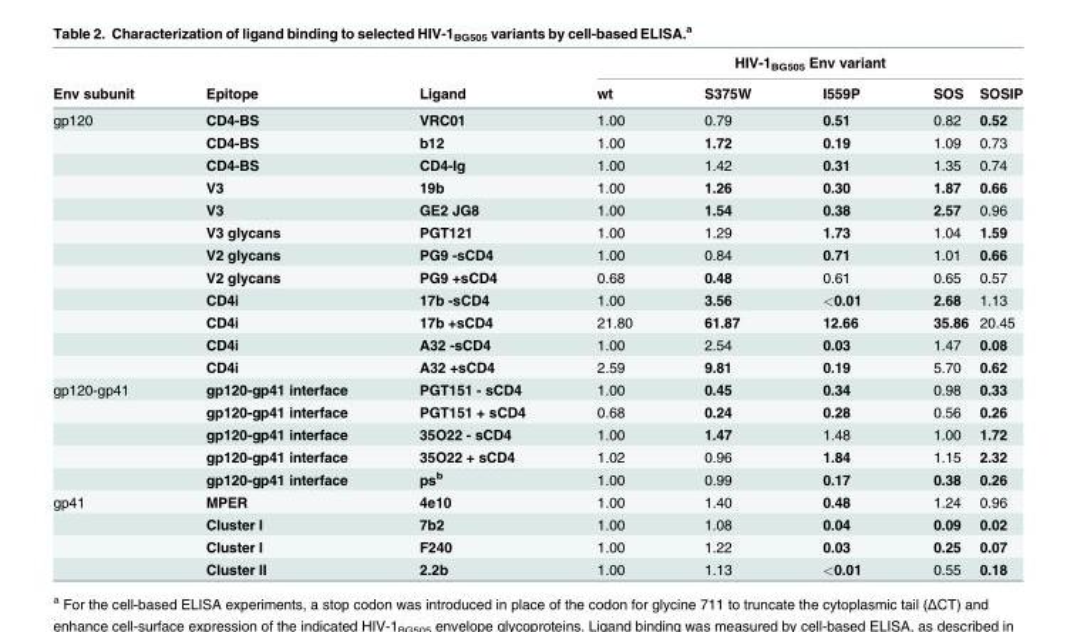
<table><thead><tr><td rowspan="2">Env subunit</td><td rowspan="2">Epitope</td><td rowspan="2">Ligand</td><td colspan="5">HIV-1<sub>BG505</sub> Env variant</td></tr><tr><td>wt</td><td>S375W</td><td>I559P</td><td>SOS</td><td>SOSIP</td></tr></thead><tbody><tr><td rowspan="12">gp120</td><td>CD4-BS</td><td>VRC01</td><td>1.00</td><td>0.79</td><td>0.51</td><td>0.82</td><td>0.52</td></tr><tr><td>CD4-BS</td><td>b12</td><td>1.00</td><td>1.72</td><td>0.19</td><td>1.09</td><td>0.73</td></tr><tr><td>CD4-BS</td><td>CD4-Ig</td><td>1.00</td><td>1.42</td><td>0.31</td><td>1.35</td><td>0.74</td></tr><tr><td>V3</td><td>19b</td><td>1.00</td><td>1.26</td><td>0.30</td><td>1.87</td><td>0.66</td></tr><tr><td>V3</td><td>GE2 JG8</td><td>1.00</td><td>1.54</td><td>0.38</td><td>2.57</td><td>0.96</td></tr><tr><td>V3 glycans</td><td>PGT121</td><td>1.00</td><td>1.29</td><td>1.73</td><td>1.04</td><td>1.59</td></tr><tr><td>V2 glycans</td><td>PG9 -sCD4</td><td>1.00</td><td>0.84</td><td>0.71</td><td>1.01</td><td>0.66</td></tr><tr><td>V2 glycans</td><td>PG9 +sCD4</td><td>0.68</td><td>0.48</td><td>0.61</td><td>0.65</td><td>0.57</td></tr><tr><td>CD4i</td><td>17b -sCD4</td><td>1.00</td><td>3.56</td><td>&lt;0.01</td><td>2.68</td><td>1.13</td></tr><tr><td>CD4i</td><td>17b +sCD4</td><td>21.80</td><td>61.87</td><td>12.66</td><td>35.86</td><td>20.45</td></tr><tr><td>CD4i</td><td>A32 -sCD4</td><td>1.00</td><td>2.54</td><td>0.03</td><td>1.47</td><td>0.08</td></tr><tr><td>CD4i</td><td>A32 +sCD4</td><td>2.59</td><td>9.81</td><td>0.19</td><td>5.70</td><td>0.62</td></tr><tr><td rowspan="5">gp120-gp41</td><td>gp120-gp41 interface</td><td>PGT151 - sCD4</td><td>1.00</td><td>0.45</td><td>0.34</td><td>0.98</td><td>0.33</td></tr><tr><td>gp120-gp41 interface</td><td>PGT151 + sCD4</td><td>0.68</td><td>0.24</td><td>0.28</td><td>0.56</td><td>0.26</td></tr><tr><td>gp120-gp41 interface</td><td>35O22 - sCD4</td><td>1.00</td><td>1.47</td><td>1.48</td><td>1.00</td><td>1.72</td></tr><tr><td>gp120-gp41 interface</td><td>35O22 + sCD4</td><td>1.02</td><td>0.96</td><td>1.84</td><td>1.15</td><td>2.32</td></tr><tr><td>gp120-gp41 interface</td><td>ps<sup>b</sup></td><td>1.00</td><td>0.99</td><td>0.17</td><td>0.38</td><td>0.26</td></tr><tr><td rowspan="4">gp41</td><td>MPER</td><td>4e10</td><td>1.00</td><td>1.40</td><td>0.48</td><td>1.24</td><td>0.96</td></tr><tr><td>Cluster I</td><td>7b2</td><td>1.00</td><td>1.08</td><td>0.04</td><td>0.09</td><td>0.02</td></tr><tr><td>Cluster I</td><td>F240</td><td>1.00</td><td>1.22</td><td>0.03</td><td>0.25</td><td>0.07</td></tr><tr><td>Cluster II</td><td>2.2b</td><td>1.00</td><td>1.13</td><td>&lt;0.01</td><td>0.55</td><td>0.18</td></tr></tbody></table>